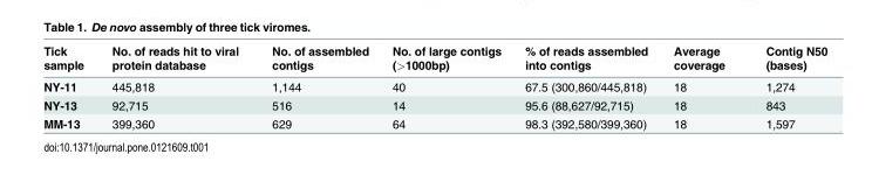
<table><thead><tr><td>Tick sample</td><td>No. of reads hit to viral protein database</td><td>No. of assembled contigs</td><td>No. of large contigs (&gt;1000bp)</td><td>% of reads assembled into contigs</td><td>Average coverage</td><td>Contig N50 (bases)</td></tr></thead><tbody><tr><td>NY-11</td><td>445,818</td><td>1,144</td><td>40</td><td>67.5 (300,860/445,818)</td><td>18</td><td>1,274</td></tr><tr><td>NY-13</td><td>92,715</td><td>516</td><td>14</td><td>95.6 (88,627/92,715)</td><td>18</td><td>843</td></tr><tr><td>MM-13</td><td>399,360</td><td>629</td><td>64</td><td>98.3 (392,580/399,360)</td><td>18</td><td>1,597</td></tr></tbody></table>